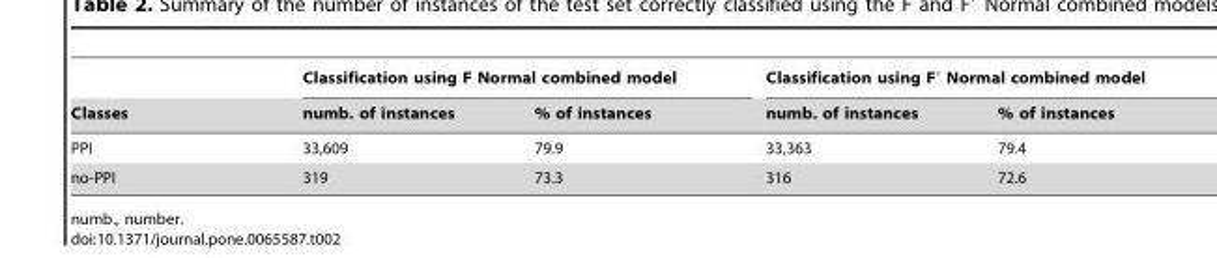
<table><thead><tr><td rowspan="2">Classes</td><td colspan="2">Classification using F Normal combined model</td><td colspan="2">Classification using F′ Normal combined model</td></tr><tr><td>numb. of instances</td><td>% of instances</td><td>numb. of instances</td><td>% of instances</td></tr></thead><tbody><tr><td>PPI</td><td>33,609</td><td>79.9</td><td>33,363</td><td>79.4</td></tr><tr><td>no-PPI</td><td>319</td><td>73.3</td><td>316</td><td>72.6</td></tr></tbody></table>